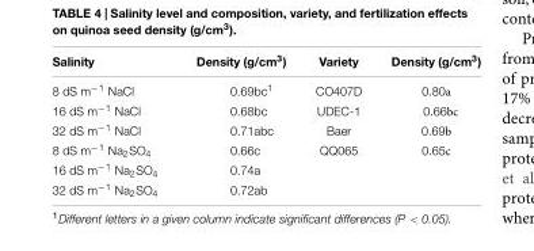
<table><thead><tr><td>Salinity</td><td>Density (g/cm<sup>3</sup>)</td><td>Variety</td><td>Density (g/cm<sup>3</sup>)</td></tr></thead><tbody><tr><td>8 dS m<sup>−1</sup> NaCl</td><td>0.69bc1</td><td>CO407D</td><td>0.80a</td></tr><tr><td>16 dS m<sup>−1</sup> NaCl</td><td>0.68bc</td><td>UDEC-1</td><td>0.66bc</td></tr><tr><td>32 dS m<sup>−1</sup> NaCl</td><td>0.71abc</td><td>Baer</td><td>0.69b</td></tr><tr><td>8 dS m<sup>−1</sup> Na<sub>2</sub>SO<sub>4</sub></td><td>0.66c</td><td>QQ065</td><td>0.65c</td></tr><tr><td>16 dS m<sup>−1</sup> Na<sub>2</sub>SO<sub>4</sub></td><td>0.74a</td><td></td><td></td></tr><tr><td>32 dS m<sup>−1</sup> Na<sub>2</sub>SO<sub>4</sub></td><td>0.72ab</td><td></td><td></td></tr></tbody></table>